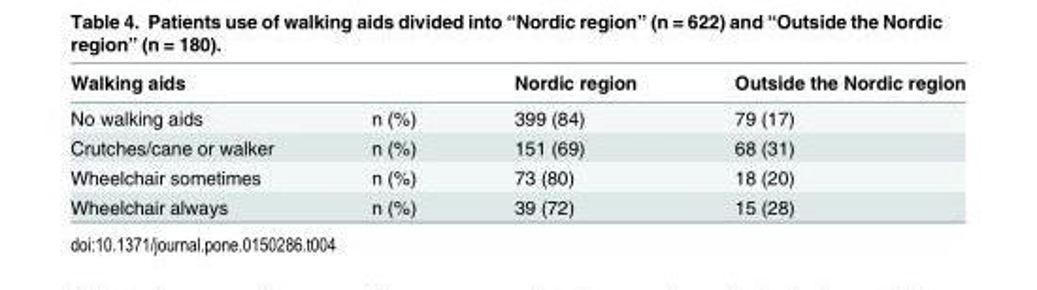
<table><thead><tr><td>Walking aids</td><td></td><td>Nordic region</td><td>Outside the Nordic region</td></tr></thead><tbody><tr><td>No walking aids</td><td>n (%)</td><td>399 (84)</td><td>79 (17)</td></tr><tr><td>Crutches/cane or walker</td><td>n (%)</td><td>151 (69)</td><td>68 (31)</td></tr><tr><td>Wheelchair sometimes</td><td>n (%)</td><td>73 (80)</td><td>18 (20)</td></tr><tr><td>Wheelchair always</td><td>n (%)</td><td>39 (72)</td><td>15 (28)</td></tr></tbody></table>